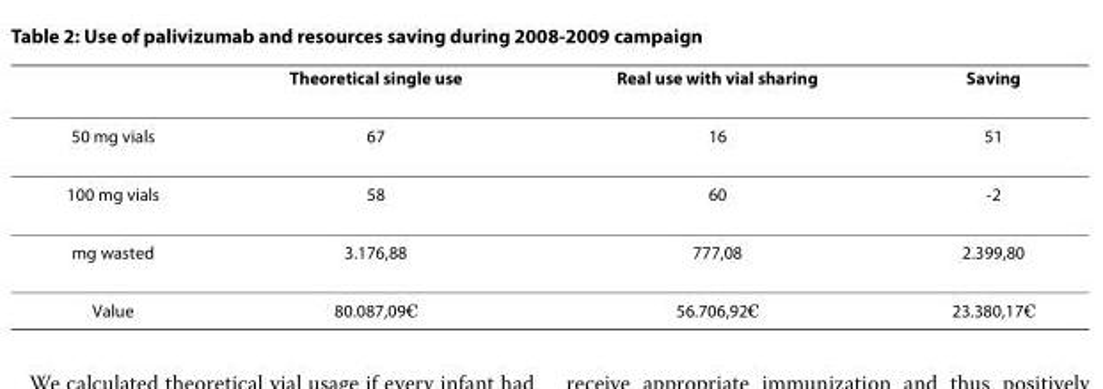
<table><thead><tr><td></td><td>Theoretical single use</td><td>Real use with vial sharing</td><td>Saving</td></tr></thead><tbody><tr><td>50 mg vials</td><td>67</td><td>16</td><td>51</td></tr><tr><td>100 mg vials</td><td>58</td><td>60</td><td>-2</td></tr><tr><td>mg wasted</td><td>3.176,88</td><td>777,08</td><td>2.399,80</td></tr><tr><td>Value</td><td>80.087,09€</td><td>56.706,92€</td><td>23.380,17€</td></tr></tbody></table>